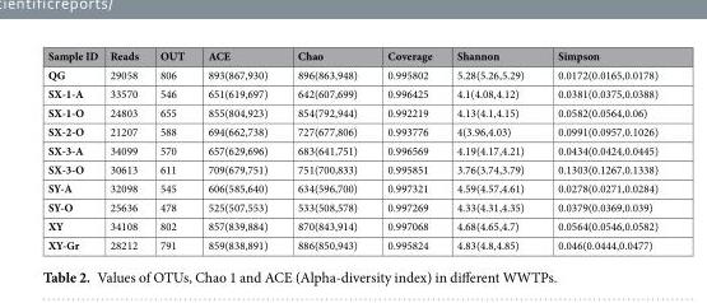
<table><thead><tr><td>Sample ID</td><td>Reads</td><td>OUT</td><td>ACE</td><td>Chao</td><td>Coverage</td><td>Shannon</td><td>Simpson</td></tr></thead><tbody><tr><td>QG</td><td>29058</td><td>806</td><td>893(867,930)</td><td>896(863,948)</td><td>0.995802</td><td>5.28(5.26,5.29)</td><td>0.0172(0.0165,0.0178)</td></tr><tr><td>SX-1-A</td><td>33570</td><td>546</td><td>651(619,697)</td><td>642(607,699)</td><td>0.996425</td><td>4.1(4.08,4.12)</td><td>0.0381(0.0375,0.0388)</td></tr><tr><td>SX-1-O</td><td>24803</td><td>655</td><td>855(804,923)</td><td>854(792,944)</td><td>0.992219</td><td>4.13(4.1,4.15)</td><td>0.0582(0.0564,0.06)</td></tr><tr><td>SX-2-O</td><td>21207</td><td>588</td><td>694(662,738)</td><td>727(677,806)</td><td>0.993776</td><td>4(3.96,4.03)</td><td>0.0991(0.0957,0.1026)</td></tr><tr><td>SX-3-A</td><td>34099</td><td>570</td><td>657(629,696)</td><td>683(641,751)</td><td>0.996569</td><td>4.19(4.17,4.21)</td><td>0.0434(0.0424,0.0445)</td></tr><tr><td>SX-3-O</td><td>30613</td><td>611</td><td>709(679,751)</td><td>751(700,833)</td><td>0.995851</td><td>3.76(3.74,3.79)</td><td>0.1303(0.1267,0.1338)</td></tr><tr><td>SY-A</td><td>32098</td><td>545</td><td>606(585,640)</td><td>634(596,700)</td><td>0.997321</td><td>4.59(4.57,4.61)</td><td>0.0278(0.0271,0.0284)</td></tr><tr><td>SY-O</td><td>25636</td><td>478</td><td>525(507,553)</td><td>533(508,578)</td><td>0.997269</td><td>4.33(4.31,4.35)</td><td>0.0379(0.0369,0.039)</td></tr><tr><td>XY</td><td>34108</td><td>802</td><td>857(839,884)</td><td>870(843,914)</td><td>0.997068</td><td>4.68(4.65,4.7)</td><td>0.0564(0.0546,0.0582)</td></tr><tr><td>XY-Gr</td><td>28212</td><td>791</td><td>859(838,891)</td><td>886(850,943)</td><td>0.995824</td><td>4.83(4.8,4.85)</td><td>0.046(0.0444,0.0477)</td></tr></tbody></table>